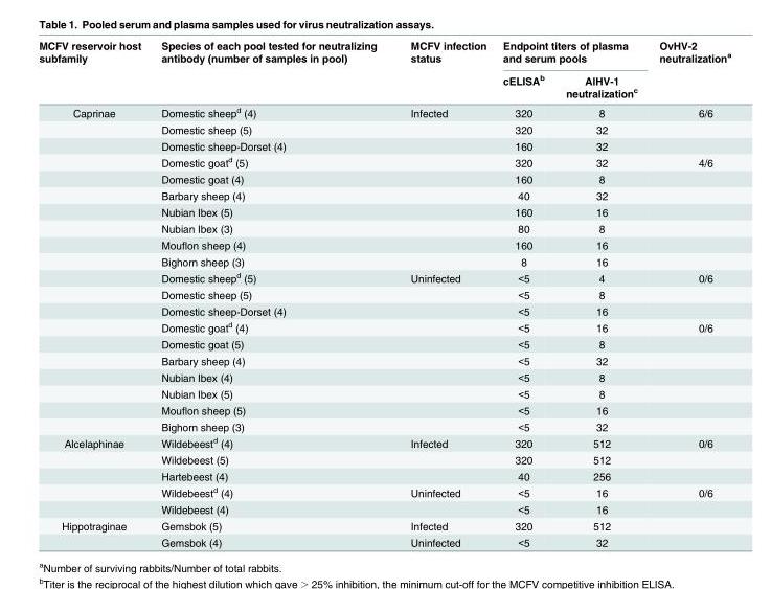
<table><thead><tr><td rowspan="2">MCFV reservoir host subfamily</td><td rowspan="2">Species of each pool tested for neutralizing antibody (number of samples in pool)</td><td rowspan="2">MCFV infection status</td><td colspan="2">Endpoint titers of plasma and serum pools</td><td rowspan="2">OvHV-2 neutralization<sup>a</sup></td></tr><tr><td>cELISA<sup>b</sup></td><td>AlHV-1 neutralization<sup>c</sup></td></tr></thead><tbody><tr><td rowspan="20">Caprinae</td><td>Domestic sheep<sup>d</sup> (4)</td><td>Infected</td><td>320</td><td>8</td><td>6/6</td></tr><tr><td>Domestic sheep (5)</td><td></td><td>320</td><td>32</td><td></td></tr><tr><td>Domestic sheep-Dorset (4)</td><td></td><td>160</td><td>32</td><td></td></tr><tr><td>Domestic goat<sup>d</sup> (5)</td><td></td><td>320</td><td>32</td><td>4/6</td></tr><tr><td>Domestic goat (4)</td><td></td><td>160</td><td>8</td><td></td></tr><tr><td>Barbary sheep (4)</td><td></td><td>40</td><td>32</td><td></td></tr><tr><td>Nubian Ibex (5)</td><td></td><td>160</td><td>16</td><td></td></tr><tr><td>Nubian Ibex (3)</td><td></td><td>80</td><td>8</td><td></td></tr><tr><td>Mouflon sheep (4)</td><td></td><td>160</td><td>16</td><td></td></tr><tr><td>Bighorn sheep (3)</td><td></td><td>8</td><td>16</td><td></td></tr><tr><td>Domestic sheep<sup>d</sup> (5)</td><td>Uninfected</td><td>&lt;5</td><td>4</td><td>0/6</td></tr><tr><td>Domestic sheep (5)</td><td></td><td>&lt;5</td><td>8</td><td></td></tr><tr><td>Domestic sheep-Dorset (4)</td><td></td><td>&lt;5</td><td>16</td><td></td></tr><tr><td>Domestic goat<sup>d</sup> (4)</td><td></td><td>&lt;5</td><td>16</td><td>0/6</td></tr><tr><td>Domestic goat (5)</td><td></td><td>&lt;5</td><td>8</td><td></td></tr><tr><td>Barbary sheep (4)</td><td></td><td>&lt;5</td><td>32</td><td></td></tr><tr><td>Nubian Ibex (4)</td><td></td><td>&lt;5</td><td>8</td><td></td></tr><tr><td>Nubian Ibex (5)</td><td></td><td>&lt;5</td><td>8</td><td></td></tr><tr><td>Mouflon sheep (5)</td><td></td><td>&lt;5</td><td>16</td><td></td></tr><tr><td>Bighorn sheep (3)</td><td></td><td>&lt;5</td><td>32</td><td></td></tr><tr><td rowspan="5">Alcelaphinae</td><td>Wildebeest<sup>d</sup> (4)</td><td>Infected</td><td>320</td><td>512</td><td>0/6</td></tr><tr><td>Wildebeest (5)</td><td></td><td>320</td><td>512</td><td></td></tr><tr><td>Hartebeest (4)</td><td></td><td>40</td><td>256</td><td></td></tr><tr><td>Wildebeest<sup>d</sup> (4)</td><td>Uninfected</td><td>&lt;5</td><td>16</td><td>0/6</td></tr><tr><td>Wildebeest (4)</td><td></td><td>&lt;5</td><td>16</td><td></td></tr><tr><td rowspan="2">Hippotraginae</td><td>Gemsbok (5)</td><td>Infected</td><td>320</td><td>512</td><td></td></tr><tr><td>Gemsbok (4)</td><td>Uninfected</td><td>&lt;5</td><td>32</td><td></td></tr></tbody></table>